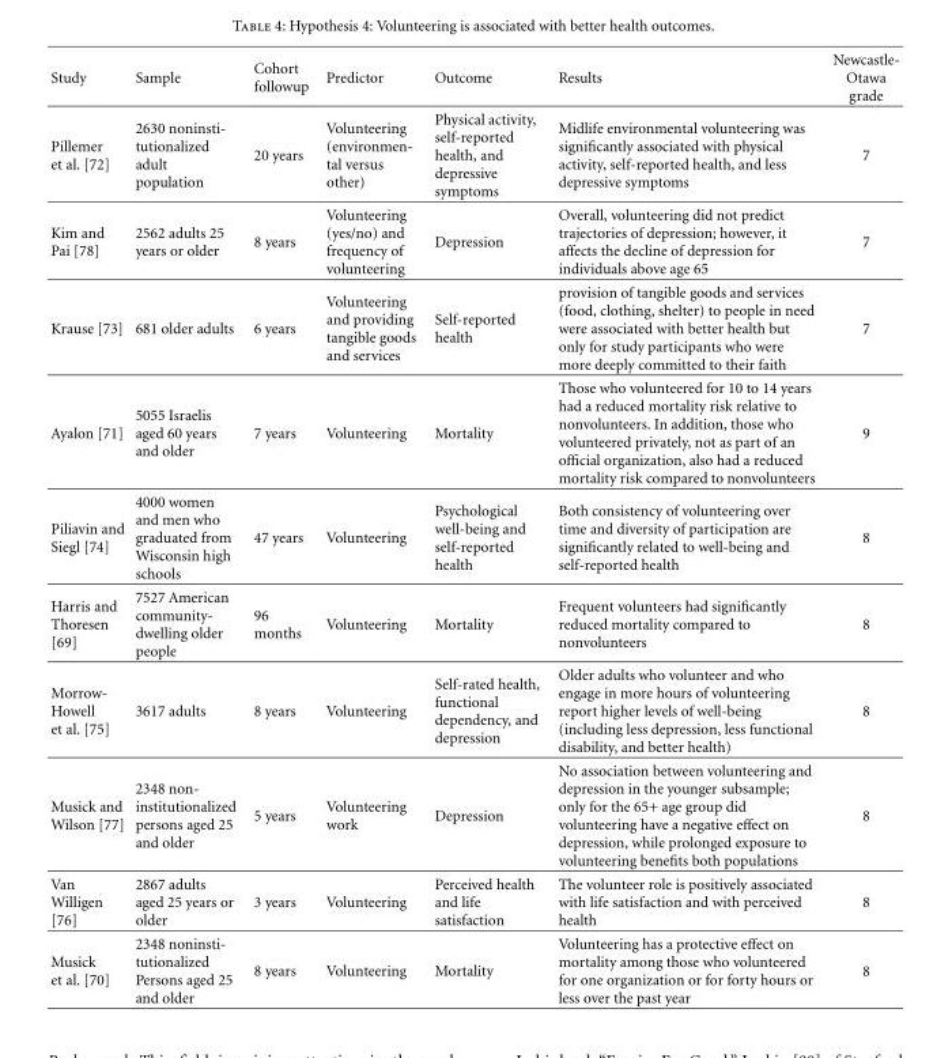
<table><thead><tr><td>Study</td><td>Sample</td><td>Cohort followup</td><td>Predictor</td><td>Outcome</td><td>Results</td><td>Newcastle- Otawa grade</td></tr></thead><tbody><tr><td>Pillemer et al. [72]</td><td>2630 noninsti- tutionalized adult population</td><td>20 years</td><td>Volunteering (environmen- tal versus other)</td><td>Physical activity, self-reported health, and depressive symptoms</td><td>Midlife environmental volunteering was significantly associated with physical activity, self-reported health, and less depressive symptoms</td><td>7</td></tr><tr><td>Kim and Pai [78]</td><td>2562 adults 25 years or older</td><td>8 years</td><td>Volunteering (yes/no) and frequency of volunteering</td><td>Depression</td><td>Overall, volunteering did not predict trajectories of depression; however, it affects the decline of depression for individuals above age 65</td><td>7</td></tr><tr><td>Krause [73]</td><td>681 older adults</td><td>6 years</td><td>Volunteering and providing tangible goods and services</td><td>Self-reported health</td><td>provision of tangible goods and services (food, clothing, shelter) to people in need were associated with better health but only for study participants who were more deeply committed to their faith</td><td>7</td></tr><tr><td>Ayalon [71]</td><td>5055 Israelis aged 60 years and older</td><td>7 years</td><td>Volunteering</td><td>Mortality</td><td>Those who volunteered for 10 to 14 years had a reduced mortality risk relative to nonvolunteers. In addition, those who volunteered privately, not as part of an official organization, also had a reduced mortality risk compared to nonvolunteers</td><td>9</td></tr><tr><td>Piliavin and Siegl [74]</td><td>4000 women and men who graduated from Wisconsin high schools</td><td>47 years</td><td>Volunteering</td><td>Psychological well-being and self-reported health</td><td>Both consistency of volunteering over time and diversity of participation are significantly related to well-being and self-reported health</td><td>8</td></tr><tr><td>Harris and Thoresen [69]</td><td>7527 American community- dwelling older people</td><td>96 months</td><td>Volunteering</td><td>Mortality</td><td>Frequent volunteers had significantly reduced mortality compared to nonvolunteers</td><td>8</td></tr><tr><td>Morrow- Howell et al. [75]</td><td>3617 adults</td><td>8 years</td><td>Volunteering</td><td>Self-rated health, functional dependency, and depression</td><td>Older adults who volunteer and who engage in more hours of volunteering report higher levels of well-being (including less depression, less functional disability, and better health)</td><td>8</td></tr><tr><td>Musick and Wilson [77]</td><td>2348 non- institutionalized persons aged 25 and older</td><td>5 years</td><td>Volunteering work</td><td>Depression</td><td>No association between volunteering and depression in the younger subsample; only for the 65+ age group did volunteering have a negative effect on depression, while prolonged exposure to volunteering benefits both populations</td><td>8</td></tr><tr><td>Van Willigen [76]</td><td>2867 adults aged 25 years or older</td><td>3 years</td><td>Volunteering</td><td>Perceived health and life satisfaction</td><td>The volunteer role is positively associated with life satisfaction and with perceived health</td><td>8</td></tr><tr><td>Musick et al. [70]</td><td>2348 noninsti- tutionalized Persons aged 25 and older</td><td>8 years</td><td>Volunteering</td><td>Mortality</td><td>Volunteering has a protective effect on mortality among those who volunteered for one organization or for forty hours or less over the past year</td><td>8</td></tr></tbody></table>